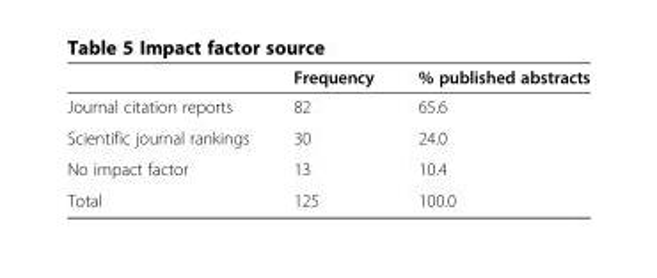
<table><thead><tr><td></td><td>Frequency</td><td>% published abstracts</td></tr></thead><tbody><tr><td>Journal citation reports</td><td>82</td><td>65.6</td></tr><tr><td>Scientific journal rankings</td><td>30</td><td>24.0</td></tr><tr><td>No impact factor</td><td>13</td><td>10.4</td></tr><tr><td>Total</td><td>125</td><td>100.0</td></tr></tbody></table>